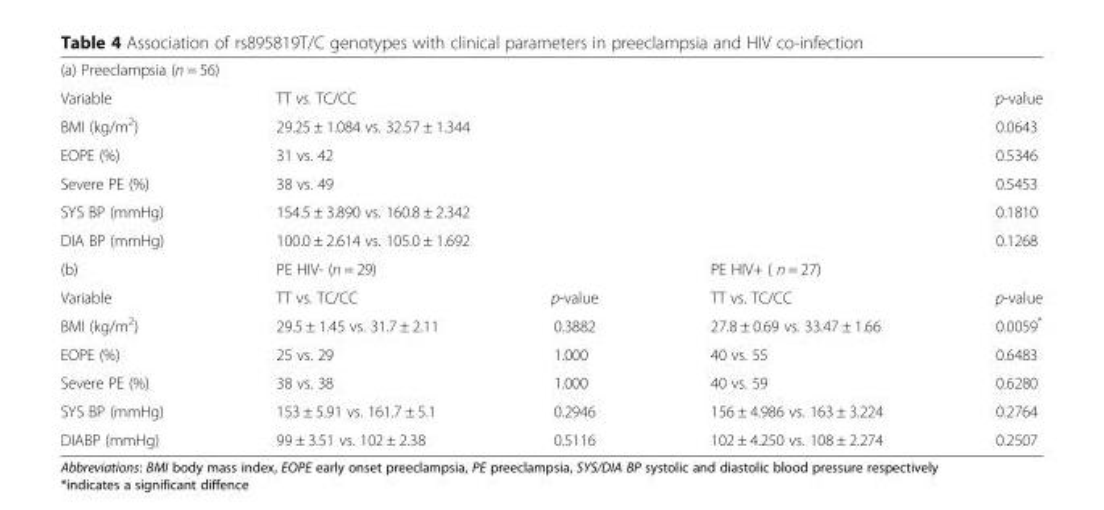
<table><tbody><tr><td colspan="5">(a) Preeclampsia (n = 56)</td></tr><tr><td>Variable</td><td colspan="3">TT vs. TC/CC</td><td>p-value</td></tr><tr><td>BMI (kg/m<sup>2</sup>)</td><td colspan="3">29.25 ± 1.084 vs. 32.57 ± 1.344</td><td>0.0643</td></tr><tr><td>EOPE (%)</td><td colspan="3">31 vs. 42</td><td>0.5346</td></tr><tr><td>Severe PE (%)</td><td colspan="3">38 vs. 49</td><td>0.5453</td></tr><tr><td>SYS BP (mmHg)</td><td colspan="3">154.5 ± 3.890 vs. 160.8 ± 2.342</td><td>0.1810</td></tr><tr><td>DIA BP (mmHg)</td><td colspan="3">100.0 ± 2.614 vs. 105.0 ± 1.692</td><td>0.1268</td></tr><tr><td>(b)</td><td colspan="2">PE HIV- (n = 29)</td><td colspan="2">PE HIV+ ( n = 27)</td></tr><tr><td>Variable</td><td>TT vs. TC/CC</td><td>p-value</td><td>TT vs. TC/CC</td><td>p-value</td></tr><tr><td>BMI (kg/m<sup>2</sup>)</td><td>29.5 ± 1.45 vs. 31.7 ± 2.11</td><td>0.3882</td><td>27.8 ± 0.69 vs. 33.47 ± 1.66</td><td>0.0059*</td></tr><tr><td>EOPE (%)</td><td>25 vs. 29</td><td>1.000</td><td>40 vs. 55</td><td>0.6483</td></tr><tr><td>Severe PE (%)</td><td>38 vs. 38</td><td>1.000</td><td>40 vs. 59</td><td>0.6280</td></tr><tr><td>SYS BP (mmHg)</td><td>153 ± 5.91 vs. 161.7 ± 5.1</td><td>0.2946</td><td>156 ± 4.986 vs. 163 ± 3.224</td><td>0.2764</td></tr><tr><td>DIABP (mmHg)</td><td>99 ± 3.51 vs. 102 ± 2.38</td><td>0.5116</td><td>102 ± 4.250 vs. 108 ± 2.274</td><td>0.2507</td></tr></tbody></table>